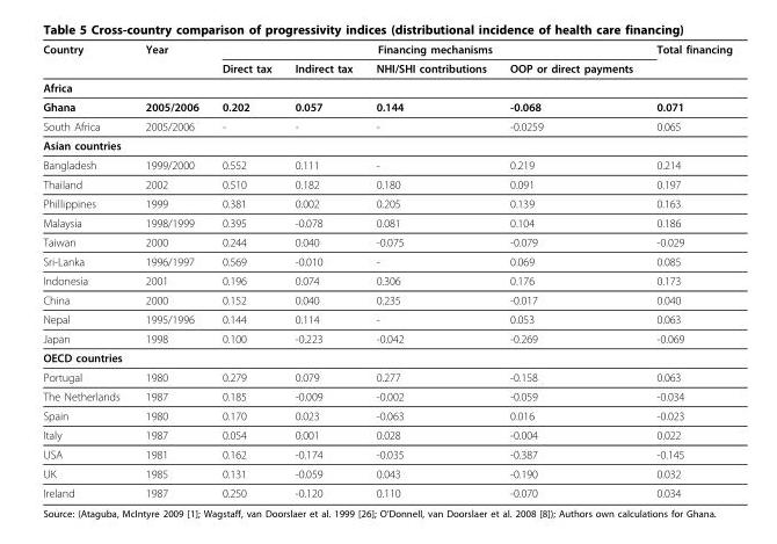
<table><thead><tr><td rowspan="2">Country</td><td rowspan="2">Year</td><td colspan="4">Financing mechanisms</td><td rowspan="2">Total financing</td></tr><tr><td>Direct tax</td><td>Indirect tax</td><td>NHI/SHI contributions</td><td>OOP or direct payments</td></tr></thead><tbody><tr><td colspan="7">Africa</td></tr><tr><td>Ghana</td><td>2005/2006</td><td>0.202</td><td>0.057</td><td>0.144</td><td>-0.068</td><td>0.071</td></tr><tr><td>South Africa</td><td>2005/2006</td><td>-</td><td>-</td><td>-</td><td>-0.0259</td><td>0.065</td></tr><tr><td colspan="7">Asian countries</td></tr><tr><td>Bangladesh</td><td>1999/2000</td><td>0.552</td><td>0.111</td><td>-</td><td>0.219</td><td>0.214</td></tr><tr><td>Thailand</td><td>2002</td><td>0.510</td><td>0.182</td><td>0.180</td><td>0.091</td><td>0.197</td></tr><tr><td>Phillippines</td><td>1999</td><td>0.381</td><td>0.002</td><td>0.205</td><td>0.139</td><td>0.163</td></tr><tr><td>Malaysia</td><td>1998/1999</td><td>0.395</td><td>-0.078</td><td>0.081</td><td>0.104</td><td>0.186</td></tr><tr><td>Taiwan</td><td>2000</td><td>0.244</td><td>0.040</td><td>-0.075</td><td>-0.079</td><td>-0.029</td></tr><tr><td>Sri-Lanka</td><td>1996/1997</td><td>0.569</td><td>-0.010</td><td>-</td><td>0.069</td><td>0.085</td></tr><tr><td>Indonesia</td><td>2001</td><td>0.196</td><td>0.074</td><td>0.306</td><td>0.176</td><td>0.173</td></tr><tr><td>China</td><td>2000</td><td>0.152</td><td>0.040</td><td>0.235</td><td>-0.017</td><td>0.040</td></tr><tr><td>Nepal</td><td>1995/1996</td><td>0.144</td><td>0.114</td><td>-</td><td>0.053</td><td>0.063</td></tr><tr><td>Japan</td><td>1998</td><td>0.100</td><td>-0.223</td><td>-0.042</td><td>-0.269</td><td>-0.069</td></tr><tr><td colspan="7">OECD countries</td></tr><tr><td>Portugal</td><td>1980</td><td>0.279</td><td>0.079</td><td>0.277</td><td>-0.158</td><td>0.063</td></tr><tr><td>The Netherlands</td><td>1987</td><td>0.185</td><td>-0.009</td><td>-0.002</td><td>-0.059</td><td>-0.034</td></tr><tr><td>Spain</td><td>1980</td><td>0.170</td><td>0.023</td><td>-0.063</td><td>0.016</td><td>-0.023</td></tr><tr><td>Italy</td><td>1987</td><td>0.054</td><td>0.001</td><td>0.028</td><td>-0.004</td><td>0.022</td></tr><tr><td>USA</td><td>1981</td><td>0.162</td><td>-0.174</td><td>-0.035</td><td>-0.387</td><td>-0.145</td></tr><tr><td>UK</td><td>1985</td><td>0.131</td><td>-0.059</td><td>0.043</td><td>-0.190</td><td>0.032</td></tr><tr><td>Ireland</td><td>1987</td><td>0.250</td><td>-0.120</td><td>0.110</td><td>-0.070</td><td>0.034</td></tr></tbody></table>